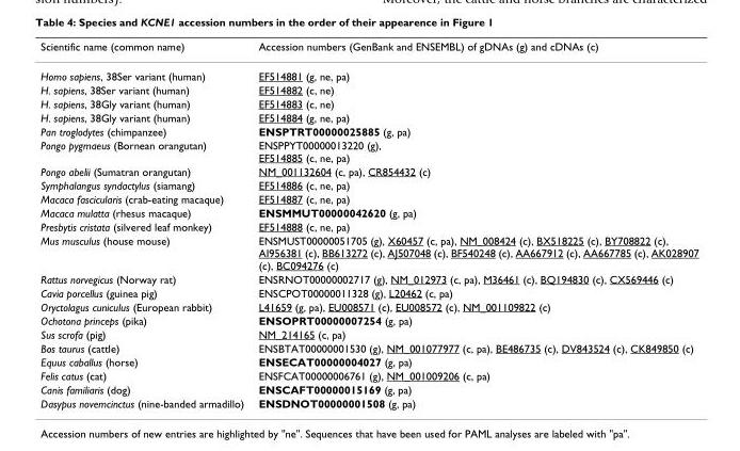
<table><thead><tr><td>Scientific name (common name)</td><td>Accession numbers (GenBank and ENSEMBL) of gDNAs (g) and cDNAs (c)</td></tr></thead><tbody><tr><td>Homo sapiens, 38Ser variant (human)</td><td>EF514881 (g, ne, pa)</td></tr><tr><td>H. sapiens, 38Ser variant (human)</td><td>EF514882 (c, ne)</td></tr><tr><td>H. sapiens, 38Gly variant (human)</td><td>EF514883 (c, ne)</td></tr><tr><td>H. sapiens, 38Gly variant (human)</td><td>EF514884 (g, ne, pa)</td></tr><tr><td>Pan troglodytes (chimpanzee)</td><td>ENSPTRT00000025885 (g, pa)</td></tr><tr><td>Pongo pygmaeus (Bornean orangutan)</td><td>ENSPPYT00000013220 (g), EF514885 (c, ne, pa)</td></tr><tr><td>Pongo abelii (Sumatran orangutan)</td><td>NM_001132604 (c, pa), CR854432 (c)</td></tr><tr><td>Symphalangus syndactylus (siamang)</td><td>EF514886 (c, ne, pa)</td></tr><tr><td>Macaca fascicularis (crab-eating macaque)</td><td>EF514887 (c, ne, pa)</td></tr><tr><td>Macaca mulatta (rhesus macaque)</td><td>ENSMMUT00000042620 (g, pa)</td></tr><tr><td>Presbytis cristata (silvered leaf monkey)</td><td>EF514888 (c, ne, pa)</td></tr><tr><td>Mus musculus (house mouse)</td><td>ENSMUST00000051705 (g), X60457 (c, pa), NM_008424 (c), BX518225 (c), BY708822 (c), AI956381 (c), BB613272 (c), AJ507048 (c), BF540248 (c), AA667912 (c), AA667785 (c), AK028907 (c), BC094276 (c)</td></tr><tr><td>Rattus norvegicus (Norway rat)</td><td>ENSRNOT00000002717 (g), NM_012973 (c, pa), M36461 (c), BQ194830 (c), CX569446 (c)</td></tr><tr><td>Cavia porcellus (guinea pig)</td><td>ENSCPOT00000011328 (g), L20462 (c, pa)</td></tr><tr><td>Oryctolagus cuniculus (European rabbit)</td><td>L41659 (g, pa), EU008571 (c), EU008572 (c), NM_001109822 (c)</td></tr><tr><td>Ochotona princeps (pika)</td><td>ENSOPRT00000007254 (g, pa)</td></tr><tr><td>Sus scrofa (pig)</td><td>NM_214165 (c, pa)</td></tr><tr><td>Bos taurus (cattle)</td><td>ENSBTAT00000001530 (g), NM_001077977 (c, pa), BE486735 (c), DV843524 (c), CK849850 (c)</td></tr><tr><td>Equus caballus (horse)</td><td>ENSECAT00000004027 (g, pa)</td></tr><tr><td>Felis catus (cat)</td><td>ENSFCAT00000006761 (g), NM_001009206 (c, pa)</td></tr><tr><td>Canis familiaris (dog)</td><td>ENSCAFT00000015169 (g, pa)</td></tr><tr><td>Dasypus novemcinctus (nine-banded armadillo)</td><td>ENSDNOT00000001508 (g, pa)</td></tr></tbody></table>